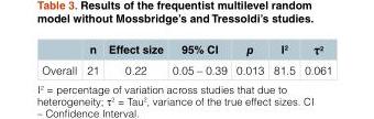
<table><thead><tr><td></td><td>n</td><td>Effect size</td><td>95% CI</td><td>p</td><td>I<sup>2</sup></td><td>τ<sup>2</sup></td></tr></thead><tbody><tr><td>Overall</td><td>21</td><td>0.22</td><td>0.05 – 0.39</td><td>0.013</td><td>81.5</td><td>0.061</td></tr></tbody></table>